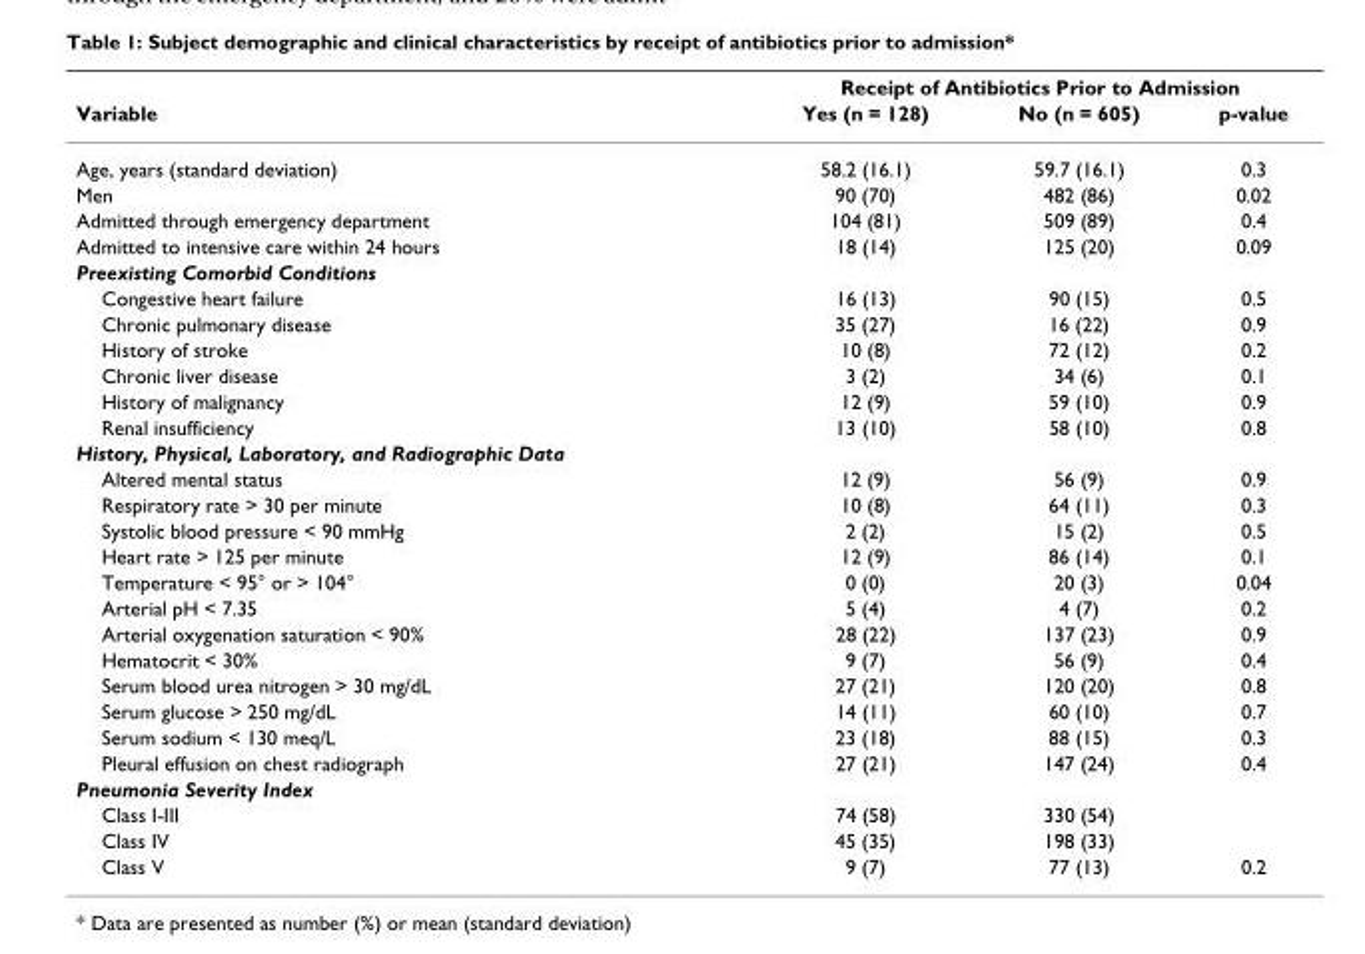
<table><thead><tr><td rowspan="2">Variable</td><td colspan="3">Receipt of Antibiotics Prior to Admission</td></tr><tr><td>Yes (n = 128)</td><td>No (n = 605)</td><td>p-value</td></tr></thead><tbody><tr><td>Age, years (standard deviation)</td><td>58.2 (16.1)</td><td>59.7 (16.1)</td><td>0.3</td></tr><tr><td>Men</td><td>90 (70)</td><td>482 (86)</td><td>0.02</td></tr><tr><td>Admitted through emergency department</td><td>104 (81)</td><td>509 (89)</td><td>0.4</td></tr><tr><td>Admitted to intensive care within 24 hours</td><td>18 (14)</td><td>125 (20)</td><td>0.09</td></tr><tr><td colspan="4">Preexisting Comorbid Conditions</td></tr><tr><td>Congestive heart failure</td><td>16 (13)</td><td>90 (15)</td><td>0.5</td></tr><tr><td>Chronic pulmonary disease</td><td>35 (27)</td><td>16 (22)</td><td>0.9</td></tr><tr><td>History of stroke</td><td>10 (8)</td><td>72 (12)</td><td>0.2</td></tr><tr><td>Chronic liver disease</td><td>3 (2)</td><td>34 (6)</td><td>0.1</td></tr><tr><td>History of malignancy</td><td>12 (9)</td><td>59 (10)</td><td>0.9</td></tr><tr><td>Renal insufficiency</td><td>13 (10)</td><td>58 (10)</td><td>0.8</td></tr><tr><td colspan="4">History, Physical, Laboratory, and Radiographic Data</td></tr><tr><td>Altered mental status</td><td>12 (9)</td><td>56 (9)</td><td>0.9</td></tr><tr><td>Respiratory rate &gt; 30 per minute</td><td>10 (8)</td><td>64 (11)</td><td>0.3</td></tr><tr><td>Systolic blood pressure &lt; 90 mmHg</td><td>2 (2)</td><td>15 (2)</td><td>0.5</td></tr><tr><td>Heart rate &gt; 125 per minute</td><td>12 (9)</td><td>86 (14)</td><td>0.1</td></tr><tr><td>Temperature &lt; 95° or &gt; 104°</td><td>0 (0)</td><td>20 (3)</td><td>0.04</td></tr><tr><td>Arterial pH &lt; 7.35</td><td>5 (4)</td><td>4 (7)</td><td>0.2</td></tr><tr><td>Arterial oxygenation saturation &lt; 90%</td><td>28 (22)</td><td>137 (23)</td><td>0.9</td></tr><tr><td>Hematocrit &lt; 30%</td><td>9 (7)</td><td>56 (9)</td><td>0.4</td></tr><tr><td>Serum blood urea nitrogen &gt; 30 mg/dL</td><td>27 (21)</td><td>120 (20)</td><td>0.8</td></tr><tr><td>Serum glucose &gt; 250 mg/dL</td><td>14 (11)</td><td>60 (10)</td><td>0.7</td></tr><tr><td>Serum sodium &lt; 130 meq/L</td><td>23 (18)</td><td>88 (15)</td><td>0.3</td></tr><tr><td>Pleural effusion on chest radiograph</td><td>27 (21)</td><td>147 (24)</td><td>0.4</td></tr><tr><td colspan="4">Pneumonia Severity Index</td></tr><tr><td>Class I-III</td><td>74 (58)</td><td>330 (54)</td><td></td></tr><tr><td>Class IV</td><td>45 (35)</td><td>198 (33)</td><td></td></tr><tr><td>Class V</td><td>9 (7)</td><td>77 (13)</td><td>0.2</td></tr></tbody></table>